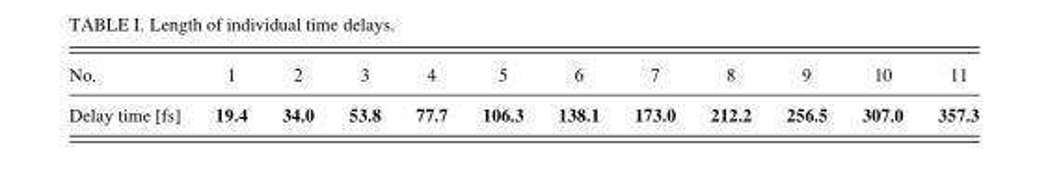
<table><thead><tr><td>No.</td><td>1</td><td>2</td><td>3</td><td>4</td><td>5</td><td>6</td><td>7</td><td>8</td><td>9</td><td>10</td><td>11</td></tr></thead><tbody><tr><td>Delay time [fs]</td><td>19.4</td><td>34.0</td><td>53.8</td><td>77.7</td><td>106.3</td><td>138.1</td><td>173.0</td><td>212.2</td><td>256.5</td><td>307.0</td><td>357.3</td></tr></tbody></table>